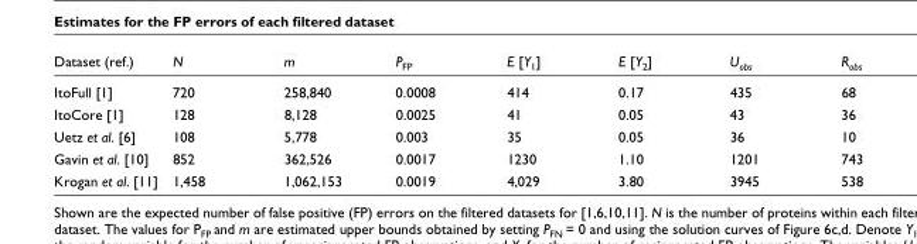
<table><thead><tr><td>Dataset (ref.)</td><td>N</td><td>m</td><td>P<sub>FP</sub></td><td>E [Y<sub>1</sub>]</td><td>E [Y<sub>2</sub>]</td><td>U<sub>obs</sub></td><td>R<sub>obs</sub></td></tr></thead><tbody><tr><td>ItoFull [1]</td><td>720</td><td>258,840</td><td>0.0008</td><td>414</td><td>0.17</td><td>435</td><td>68</td></tr><tr><td>ItoCore [1]</td><td>128</td><td>8,128</td><td>0.0025</td><td>41</td><td>0.05</td><td>43</td><td>36</td></tr><tr><td>Uetz et al. [6]</td><td>108</td><td>5,778</td><td>0.003</td><td>35</td><td>0.05</td><td>36</td><td>10</td></tr><tr><td>Gavin et al. [10]</td><td>852</td><td>362,526</td><td>0.0017</td><td>1230</td><td>1.10</td><td>1201</td><td>743</td></tr><tr><td>Krogan et al. [11]</td><td>1,458</td><td>1,062,153</td><td>0.0019</td><td>4,029</td><td>3.80</td><td>3945</td><td>538</td></tr></tbody></table>